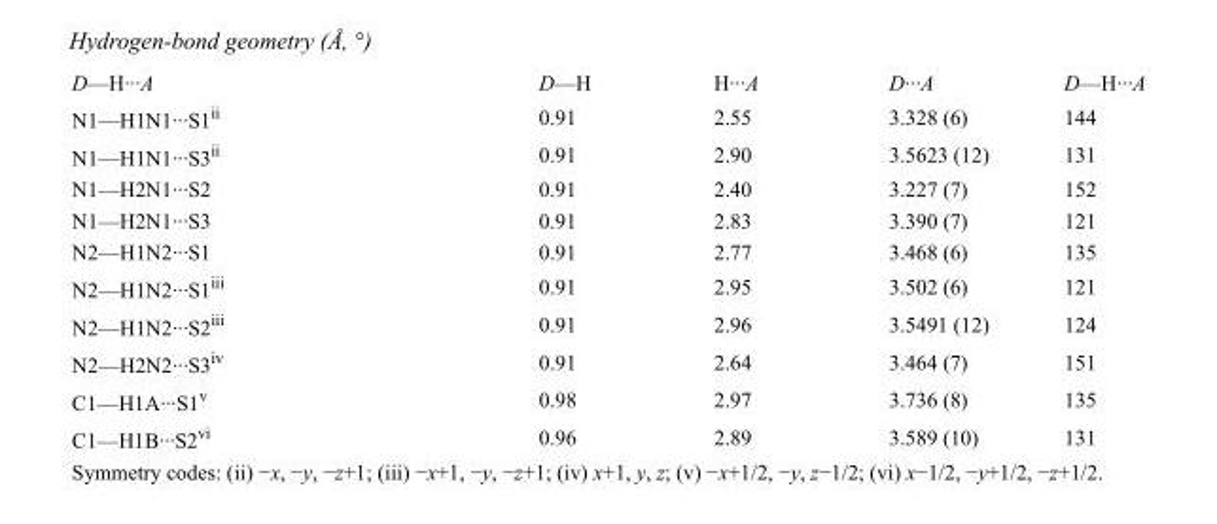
<table><tbody><tr><td>D—H···A</td><td>D—H</td><td>H···A</td><td>D···A</td><td>D—H···A</td></tr><tr><td>N1—H1N1···S1<sup>ii</sup></td><td>0.91</td><td>2.55</td><td>3.328 (6)</td><td>144</td></tr><tr><td>N1—H1N1···S3<sup>ii</sup></td><td>0.91</td><td>2.90</td><td>3.5623 (12)</td><td>131</td></tr><tr><td>N1—H2N1···S2</td><td>0.91</td><td>2.40</td><td>3.227 (7)</td><td>152</td></tr><tr><td>N1—H2N1···S3</td><td>0.91</td><td>2.83</td><td>3.390 (7)</td><td>121</td></tr><tr><td>N2—H1N2···S1</td><td>0.91</td><td>2.77</td><td>3.468 (6)</td><td>135</td></tr><tr><td>N2—H1N2···S1<sup>iii</sup></td><td>0.91</td><td>2.95</td><td>3.502 (6)</td><td>121</td></tr><tr><td>N2—H1N2···S2<sup>iii</sup></td><td>0.91</td><td>2.96</td><td>3.5491 (12)</td><td>124</td></tr><tr><td>N2—H2N2···S3<sup>iv</sup></td><td>0.91</td><td>2.64</td><td>3.464 (7)</td><td>151</td></tr><tr><td>C1—H1A···S1<sup>v</sup></td><td>0.98</td><td>2.97</td><td>3.736 (8)</td><td>135</td></tr><tr><td>C1—H1B···S2<sup>vi</sup></td><td>0.96</td><td>2.89</td><td>3.589 (10)</td><td>131</td></tr></tbody></table>